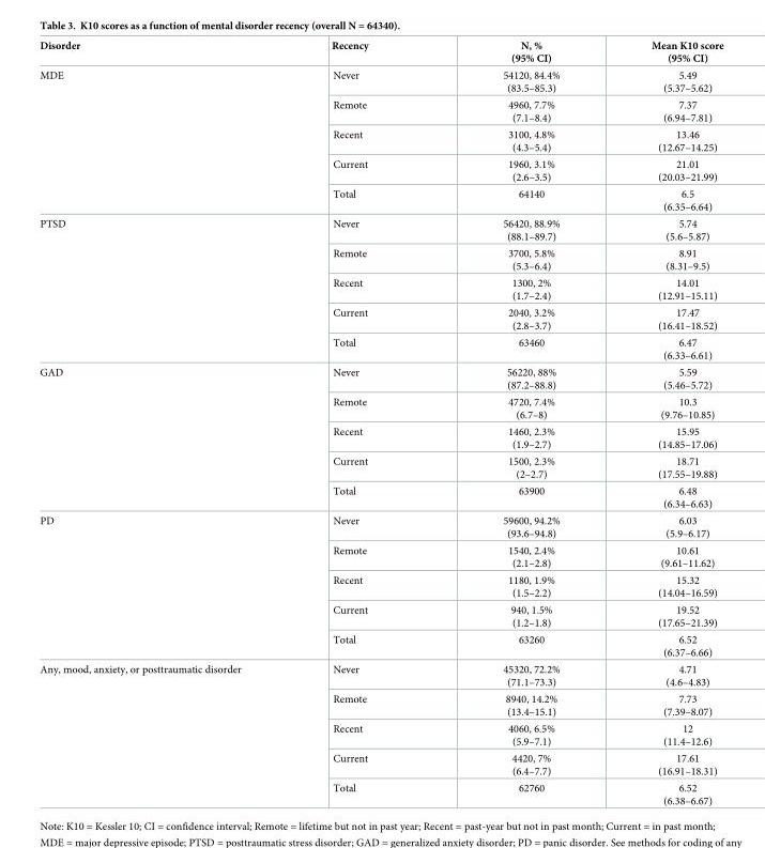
<table><thead><tr><td>Disorder</td><td>Recency</td><td>N, % (95% CI)</td><td>Mean K10 score (95% CI)</td></tr></thead><tbody><tr><td rowspan="5">MDE</td><td>Never</td><td>54120, 84.4% (83.5–85.3)</td><td>5.49 (5.37–5.62)</td></tr><tr><td>Remote</td><td>4960, 7.7% (7.1–8.4)</td><td>7.37 (6.94–7.81)</td></tr><tr><td>Recent</td><td>3100, 4.8% (4.3–5.4)</td><td>13.46 (12.67–14.25)</td></tr><tr><td>Current</td><td>1960, 3.1% (2.6–3.5)</td><td>21.01 (20.03–21.99)</td></tr><tr><td>Total</td><td>64140</td><td>6.5 (6.35–6.64)</td></tr><tr><td rowspan="5">PTSD</td><td>Never</td><td>56420, 88.9% (88.1–89.7)</td><td>5.74 (5.6–5.87)</td></tr><tr><td>Remote</td><td>3700, 5.8% (5.3–6.4)</td><td>8.91 (8.31–9.5)</td></tr><tr><td>Recent</td><td>1300, 2% (1.7–2.4)</td><td>14.01 (12.91–15.11)</td></tr><tr><td>Current</td><td>2040, 3.2% (2.8–3.7)</td><td>17.47 (16.41–18.52)</td></tr><tr><td>Total</td><td>63460</td><td>6.47 (6.33–6.61)</td></tr><tr><td rowspan="5">GAD</td><td>Never</td><td>56220, 88% (87.2–88.8)</td><td>5.59 (5.46–5.72)</td></tr><tr><td>Remote</td><td>4720, 7.4% (6.7–8)</td><td>10.3 (9.76–10.85)</td></tr><tr><td>Recent</td><td>1460, 2.3% (1.9–2.7)</td><td>15.95 (14.85–17.06)</td></tr><tr><td>Current</td><td>1500, 2.3% (2–2.7)</td><td>18.71 (17.55–19.88)</td></tr><tr><td>Total</td><td>63900</td><td>6.48 (6.34–6.63)</td></tr><tr><td rowspan="5">PD</td><td>Never</td><td>59600, 94.2% (93.6–94.8)</td><td>6.03 (5.9–6.17)</td></tr><tr><td>Remote</td><td>1540, 2.4% (2.1–2.8)</td><td>10.61 (9.61–11.62)</td></tr><tr><td>Recent</td><td>1180, 1.9% (1.5–2.2)</td><td>15.32 (14.04–16.59)</td></tr><tr><td>Current</td><td>940, 1.5% (1.2–1.8)</td><td>19.52 (17.65–21.39)</td></tr><tr><td>Total</td><td>63260</td><td>6.52 (6.37–6.66)</td></tr><tr><td rowspan="5">Any, mood, anxiety, or posttraumatic disorder</td><td>Never</td><td>45320, 72.2% (71.1–73.3)</td><td>4.71 (4.6–4.83)</td></tr><tr><td>Remote</td><td>8940, 14.2% (13.4–15.1)</td><td>7.73 (7.39–8.07)</td></tr><tr><td>Recent</td><td>4060, 6.5% (5.9–7.1)</td><td>12 (11.4–12.6)</td></tr><tr><td>Current</td><td>4420, 7% (6.4–7.7)</td><td>17.61 (16.91–18.31)</td></tr><tr><td>Total</td><td>62760</td><td>6.52 (6.38–6.67)</td></tr></tbody></table>